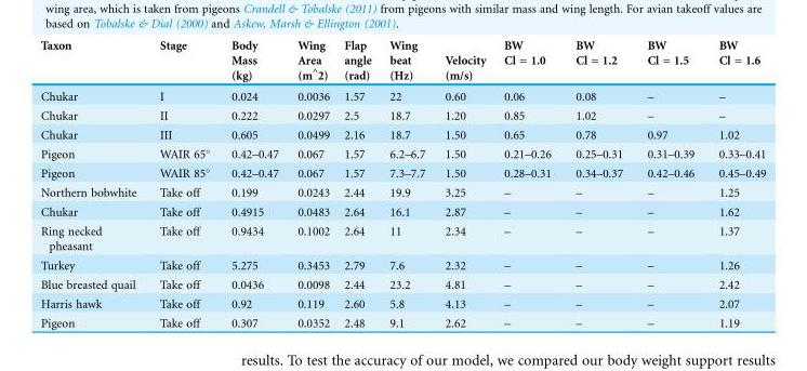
<table><thead><tr><td rowspan="2">Taxon</td><td rowspan="2">Stage</td><td rowspan="2">Body Mass (kg)</td><td rowspan="2">Wing Area (m^2)</td><td rowspan="2">Flap angle (rad)</td><td rowspan="2">Wing beat (Hz)</td><td rowspan="2">Velocity (m/s)</td><td rowspan="2">BW Cl = 1.0</td><td rowspan="2">BW Cl = 1.2</td><td rowspan="2">BW Cl = 1.5</td><td rowspan="2">BW Cl = 1.6</td></tr><tr></tr></thead><tbody><tr><td>Chukar</td><td>I</td><td>0.024</td><td>0.0036</td><td>1.57</td><td>22</td><td>0.60</td><td>0.06</td><td>0.08</td><td>–</td><td>–</td></tr><tr><td>Chukar</td><td>II</td><td>0.222</td><td>0.0297</td><td>2.5</td><td>18.7</td><td>1.20</td><td>0.85</td><td>1.02</td><td>–</td><td>–</td></tr><tr><td>Chukar</td><td>III</td><td>0.605</td><td>0.0499</td><td>2.16</td><td>18.7</td><td>1.50</td><td>0.65</td><td>0.78</td><td>0.97</td><td>1.02</td></tr><tr><td>Pigeon</td><td>WAIR 65°</td><td>0.42–0.47</td><td>0.067</td><td>1.57</td><td>6.2–6.7</td><td>1.50</td><td>0.21–0.26</td><td>0.25–0.31</td><td>0.31–0.39</td><td>0.33–0.41</td></tr><tr><td>Pigeon</td><td>WAIR 85°</td><td>0.42–0.47</td><td>0.067</td><td>1.57</td><td>7.3–7.7</td><td>1.50</td><td>0.28–0.31</td><td>0.34–0.37</td><td>0.42–0.46</td><td>0.45–0.49</td></tr><tr><td>Northern bobwhite</td><td>Take off</td><td>0.199</td><td>0.0243</td><td>2.44</td><td>19.9</td><td>3.25</td><td>–</td><td>–</td><td>–</td><td>1.25</td></tr><tr><td>Chukar</td><td>Take off</td><td>0.4915</td><td>0.0483</td><td>2.64</td><td>16.1</td><td>2.87</td><td>–</td><td>–</td><td>–</td><td>1.62</td></tr><tr><td>Ring necked pheasant</td><td>Take off</td><td>0.9434</td><td>0.1002</td><td>2.64</td><td>11</td><td>2.34</td><td>–</td><td>–</td><td>–</td><td>1.37</td></tr><tr><td>Turkey</td><td>Take off</td><td>5.275</td><td>0.3453</td><td>2.79</td><td>7.6</td><td>2.32</td><td>–</td><td>–</td><td>–</td><td>1.26</td></tr><tr><td>Blue breasted quail</td><td>Take off</td><td>0.0436</td><td>0.0098</td><td>2.44</td><td>23.2</td><td>4.81</td><td>–</td><td>–</td><td>–</td><td>2.42</td></tr><tr><td>Harris hawk</td><td>Take off</td><td>0.92</td><td>0.119</td><td>2.60</td><td>5.8</td><td>4.13</td><td>–</td><td>–</td><td>–</td><td>2.07</td></tr><tr><td>Pigeon</td><td>Take off</td><td>0.307</td><td>0.0352</td><td>2.48</td><td>9.1</td><td>2.62</td><td>–</td><td>–</td><td>–</td><td>1.19</td></tr></tbody></table>